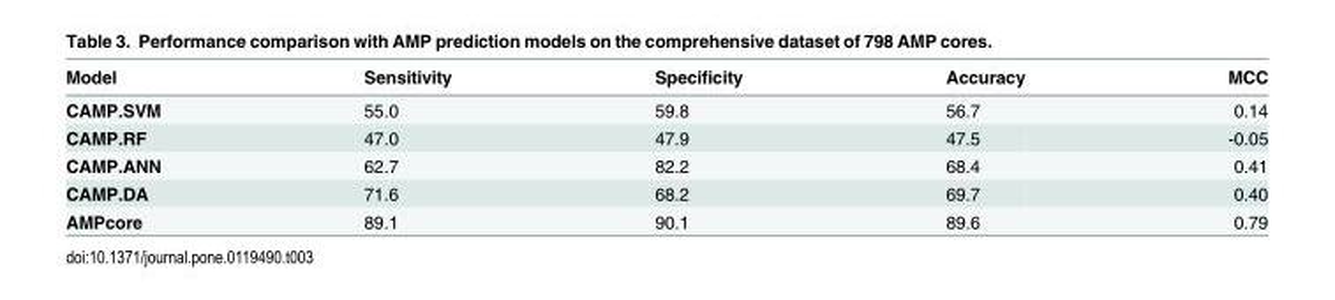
<table><thead><tr><td>Model</td><td>Sensitivity</td><td>Specificity</td><td>Accuracy</td><td>MCC</td></tr></thead><tbody><tr><td>CAMP.SVM</td><td>55.0</td><td>59.8</td><td>56.7</td><td>0.14</td></tr><tr><td>CAMP.RF</td><td>47.0</td><td>47.9</td><td>47.5</td><td>-0.05</td></tr><tr><td>CAMP.ANN</td><td>62.7</td><td>82.2</td><td>68.4</td><td>0.41</td></tr><tr><td>CAMP.DA</td><td>71.6</td><td>68.2</td><td>69.7</td><td>0.40</td></tr><tr><td>AMPcore</td><td>89.1</td><td>90.1</td><td>89.6</td><td>0.79</td></tr></tbody></table>